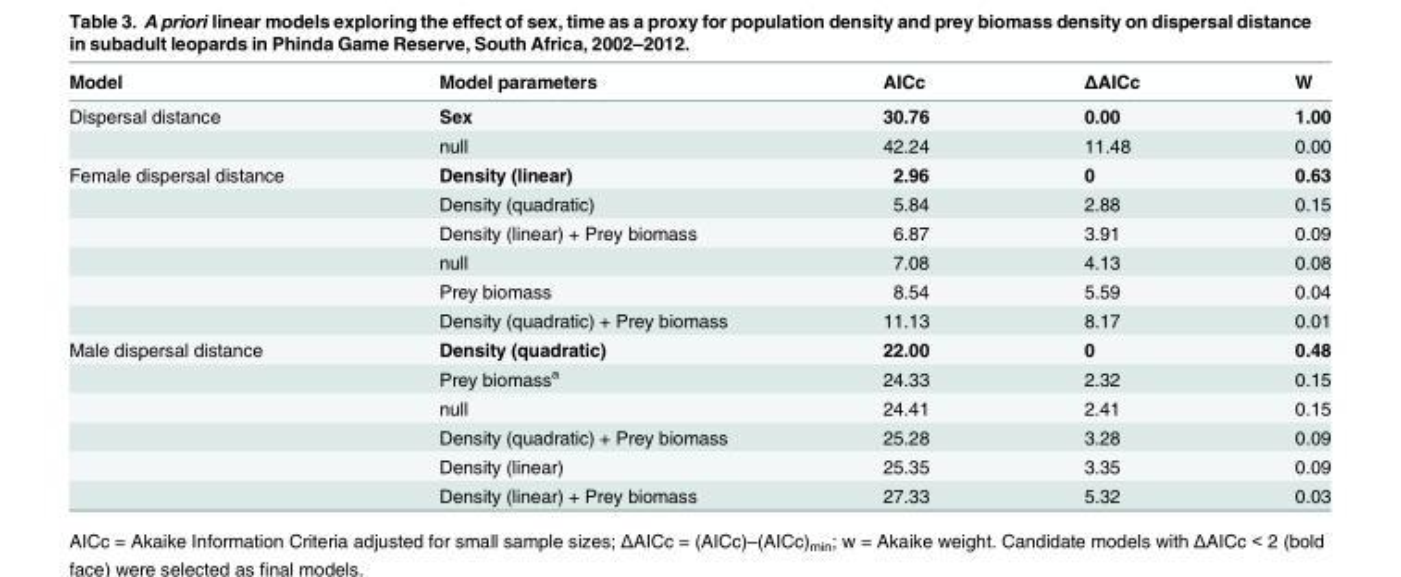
<table><thead><tr><td>Model</td><td>Model parameters</td><td>AICc</td><td>ΔAICc</td><td>W</td></tr></thead><tbody><tr><td rowspan="2">Dispersal distance</td><td>Sex</td><td>30.76</td><td>0.00</td><td>1.00</td></tr><tr><td>null</td><td>42.24</td><td>11.48</td><td>0.00</td></tr><tr><td rowspan="6">Female dispersal distance</td><td>Density (linear)</td><td>2.96</td><td>0</td><td>0.63</td></tr><tr><td>Density (quadratic)</td><td>5.84</td><td>2.88</td><td>0.15</td></tr><tr><td>Density (linear) + Prey biomass</td><td>6.87</td><td>3.91</td><td>0.09</td></tr><tr><td>null</td><td>7.08</td><td>4.13</td><td>0.08</td></tr><tr><td>Prey biomass</td><td>8.54</td><td>5.59</td><td>0.04</td></tr><tr><td>Density (quadratic) + Prey biomass</td><td>11.13</td><td>8.17</td><td>0.01</td></tr><tr><td rowspan="6">Male dispersal distance</td><td>Density (quadratic)</td><td>22.00</td><td>0</td><td>0.48</td></tr><tr><td>Prey biomass<sup>a</sup></td><td>24.33</td><td>2.32</td><td>0.15</td></tr><tr><td>null</td><td>24.41</td><td>2.41</td><td>0.15</td></tr><tr><td>Density (quadratic) + Prey biomass</td><td>25.28</td><td>3.28</td><td>0.09</td></tr><tr><td>Density (linear)</td><td>25.35</td><td>3.35</td><td>0.09</td></tr><tr><td>Density (linear) + Prey biomass</td><td>27.33</td><td>5.32</td><td>0.03</td></tr></tbody></table>